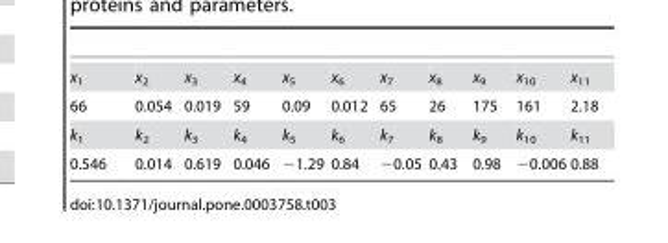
<table><tbody><tr><td>x<sub>1</sub></td><td>x<sub>2</sub></td><td>x<sub>3</sub></td><td>x<sub>4</sub></td><td>x<sub>5</sub></td><td>x<sub>6</sub></td><td>x<sub>7</sub></td><td>x<sub>8</sub></td><td>x<sub>9</sub></td><td>x<sub>10</sub></td><td>x<sub>11</sub></td></tr><tr><td>66</td><td>0.054</td><td>0.019</td><td>59</td><td>0.09</td><td>0.012</td><td>65</td><td>26</td><td>175</td><td>161</td><td>2.18</td></tr><tr><td>k<sub>1</sub></td><td>k<sub>2</sub></td><td>k<sub>3</sub></td><td>k<sub>4</sub></td><td>k<sub>5</sub></td><td>k<sub>6</sub></td><td>k<sub>7</sub></td><td>k<sub>8</sub></td><td>k<sub>9</sub></td><td>k<sub>10</sub></td><td>k<sub>11</sub></td></tr><tr><td>0.546</td><td>0.014</td><td>0.619</td><td>0.046</td><td>−1.29</td><td>0.84</td><td>−0.05</td><td>0.43</td><td>0.98</td><td>−0.006</td><td>0.88</td></tr></tbody></table>